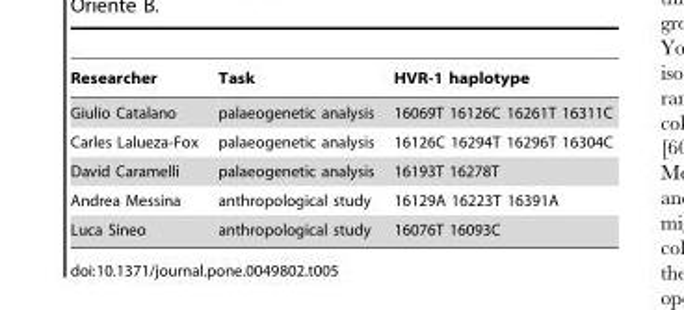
<table><thead><tr><td>Researcher</td><td>Task</td><td>HVR-1 haplotype</td></tr></thead><tbody><tr><td>Giulio Catalano</td><td>palaeogenetic analysis</td><td>16069T 16126C 16261T 16311C</td></tr><tr><td>Carles Lalueza-Fox</td><td>palaeogenetic analysis</td><td>16126C 16294T 16296T 16304C</td></tr><tr><td>David Caramelli</td><td>palaeogenetic analysis</td><td>16193T 16278T</td></tr><tr><td>Andrea Messina</td><td>anthropological study</td><td>16129A 16223T 16391A</td></tr><tr><td>Luca Sineo</td><td>anthropological study</td><td>16076T 16093C</td></tr></tbody></table>